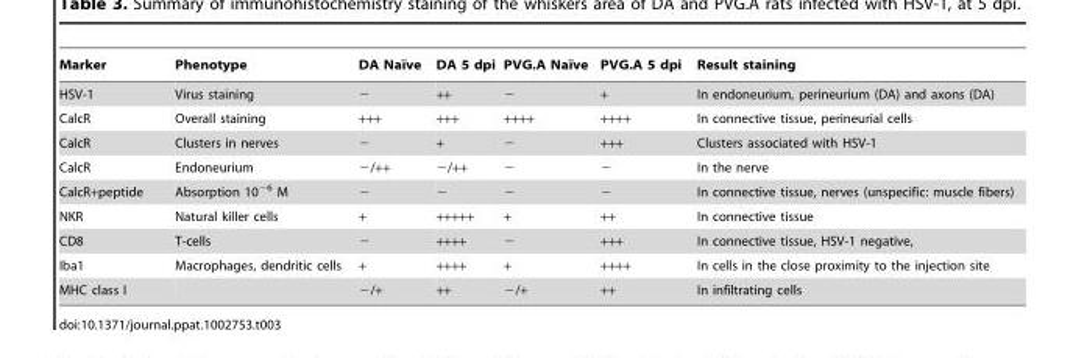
<table><thead><tr><td>Marker</td><td>Phenotype</td><td>DA Naı¨ve</td><td>DA 5 dpi</td><td>PVG.A Naı¨ve</td><td>PVG.A 5 dpi</td><td>Result staining</td></tr></thead><tbody><tr><td>HSV-1</td><td>Virus staining</td><td>−</td><td>++</td><td>−</td><td>+</td><td>In endoneurium, perineurium (DA) and axons (DA)</td></tr><tr><td>CalcR</td><td>Overall staining</td><td>+++</td><td>+++</td><td>++++</td><td>++++</td><td>In connective tissue, perineurial cells</td></tr><tr><td>CalcR</td><td>Clusters in nerves</td><td>−</td><td>+</td><td>−</td><td>+++</td><td>Clusters associated with HSV-1</td></tr><tr><td>CalcR</td><td>Endoneurium</td><td>−/++</td><td>−/++</td><td>−</td><td>−</td><td>In the nerve</td></tr><tr><td>CalcR+peptide</td><td>Absorption 10<sup>−6</sup> M</td><td>−</td><td>−</td><td>−</td><td>−</td><td>In connective tissue, nerves (unspecific: muscle fibers)</td></tr><tr><td>NKR</td><td>Natural killer cells</td><td>+</td><td>+++++</td><td>+</td><td>++</td><td>In connective tissue</td></tr><tr><td>CD8</td><td>T-cells</td><td>−</td><td>++++</td><td>−</td><td>+++</td><td>In connective tissue, HSV-1 negative,</td></tr><tr><td>Iba1</td><td>Macrophages, dendritic cells</td><td>+</td><td>++++</td><td>+</td><td>++++</td><td>In cells in the close proximity to the injection site</td></tr><tr><td>MHC class I</td><td></td><td>−/+</td><td>++</td><td>−/+</td><td>++</td><td>In infiltrating cells</td></tr></tbody></table>